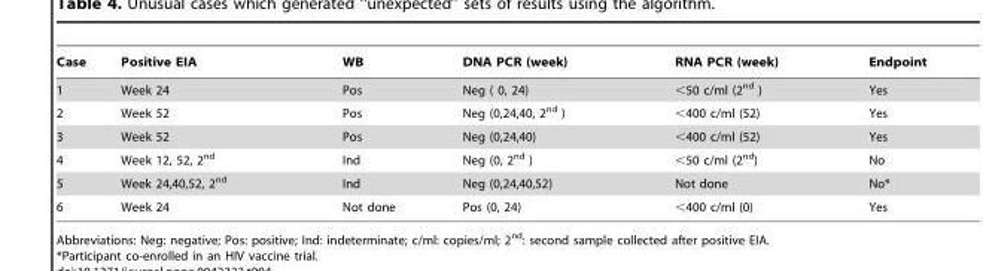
<table><thead><tr><td>Case</td><td>Positive EIA</td><td>WB</td><td>DNA PCR (week)</td><td>RNA PCR (week)</td><td>Endpoint</td></tr></thead><tbody><tr><td>1</td><td>Week 24</td><td>Pos</td><td>Neg ( 0, 24)</td><td>&lt;50 c/ml (2<sup>nd</sup> )</td><td>Yes</td></tr><tr><td>2</td><td>Week 52</td><td>Pos</td><td>Neg (0,24,40, 2<sup>nd</sup> )</td><td>&lt;400 c/ml (52)</td><td>Yes</td></tr><tr><td>3</td><td>Week 52</td><td>Pos</td><td>Neg (0,24,40)</td><td>&lt;400 c/ml (52)</td><td>Yes</td></tr><tr><td>4</td><td>Week 12, 52, 2<sup>nd</sup></td><td>Ind</td><td>Neg (0, 2<sup>nd</sup> )</td><td>&lt;50 c/ml (2<sup>nd</sup>)</td><td>No</td></tr><tr><td>5</td><td>Week 24,40,52, 2<sup>nd</sup></td><td>Ind</td><td>Neg (0,24,40,52)</td><td>Not done</td><td>No*</td></tr><tr><td>6</td><td>Week 24</td><td>Not done</td><td>Pos (0, 24)</td><td>&lt;400 c/ml (0)</td><td>Yes</td></tr></tbody></table>